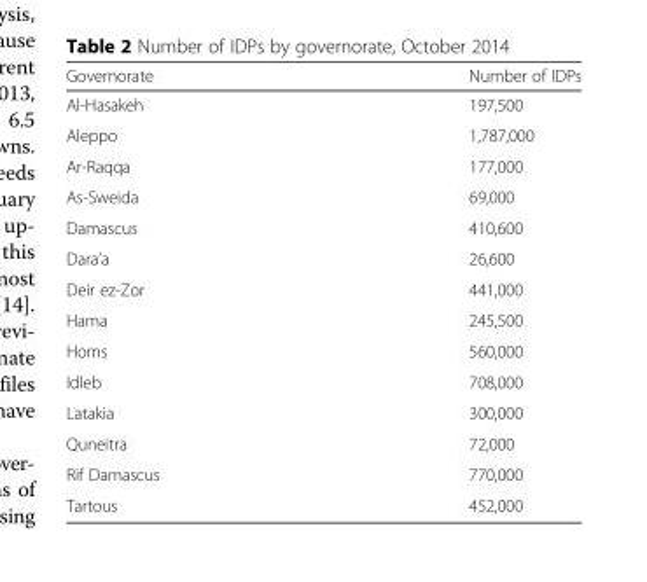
<table><thead><tr><td>Governorate</td><td>Number of IDPs</td></tr></thead><tbody><tr><td>Al-Hasakeh</td><td>197,500</td></tr><tr><td>Aleppo</td><td>1,787,000</td></tr><tr><td>Ar-Raqqa</td><td>177,000</td></tr><tr><td>As-Sweida</td><td>69,000</td></tr><tr><td>Damascus</td><td>410,600</td></tr><tr><td>Dara’a</td><td>26,600</td></tr><tr><td>Deir ez-Zor</td><td>441,000</td></tr><tr><td>Hama</td><td>245,500</td></tr><tr><td>Homs</td><td>560,000</td></tr><tr><td>Idleb</td><td>708,000</td></tr><tr><td>Latakia</td><td>300,000</td></tr><tr><td>Quneitra</td><td>72,000</td></tr><tr><td>Rif Damascus</td><td>770,000</td></tr><tr><td>Tartous</td><td>452,000</td></tr></tbody></table>